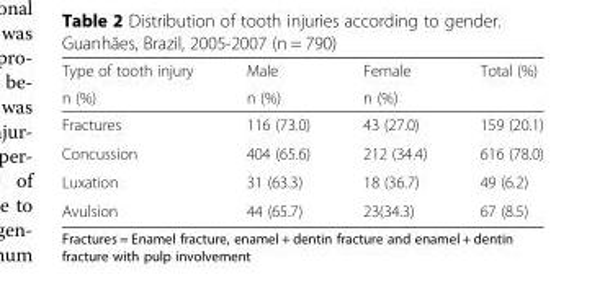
<table><thead><tr><td rowspan="2">Type of tooth injury n (%)</td><td rowspan="2">Male n (%)</td><td rowspan="2">Female n (%)</td><td rowspan="2">Total (%)</td></tr><tr></tr></thead><tbody><tr><td>Fractures</td><td>116 (73.0)</td><td>43 (27.0)</td><td>159 (20.1)</td></tr><tr><td>Concussion</td><td>404 (65.6)</td><td>212 (34.4)</td><td>616 (78.0)</td></tr><tr><td>Luxation</td><td>31 (63.3)</td><td>18 (36.7)</td><td>49 (6.2)</td></tr><tr><td>Avulsion</td><td>44 (65.7)</td><td>23(34.3)</td><td>67 (8.5)</td></tr></tbody></table>